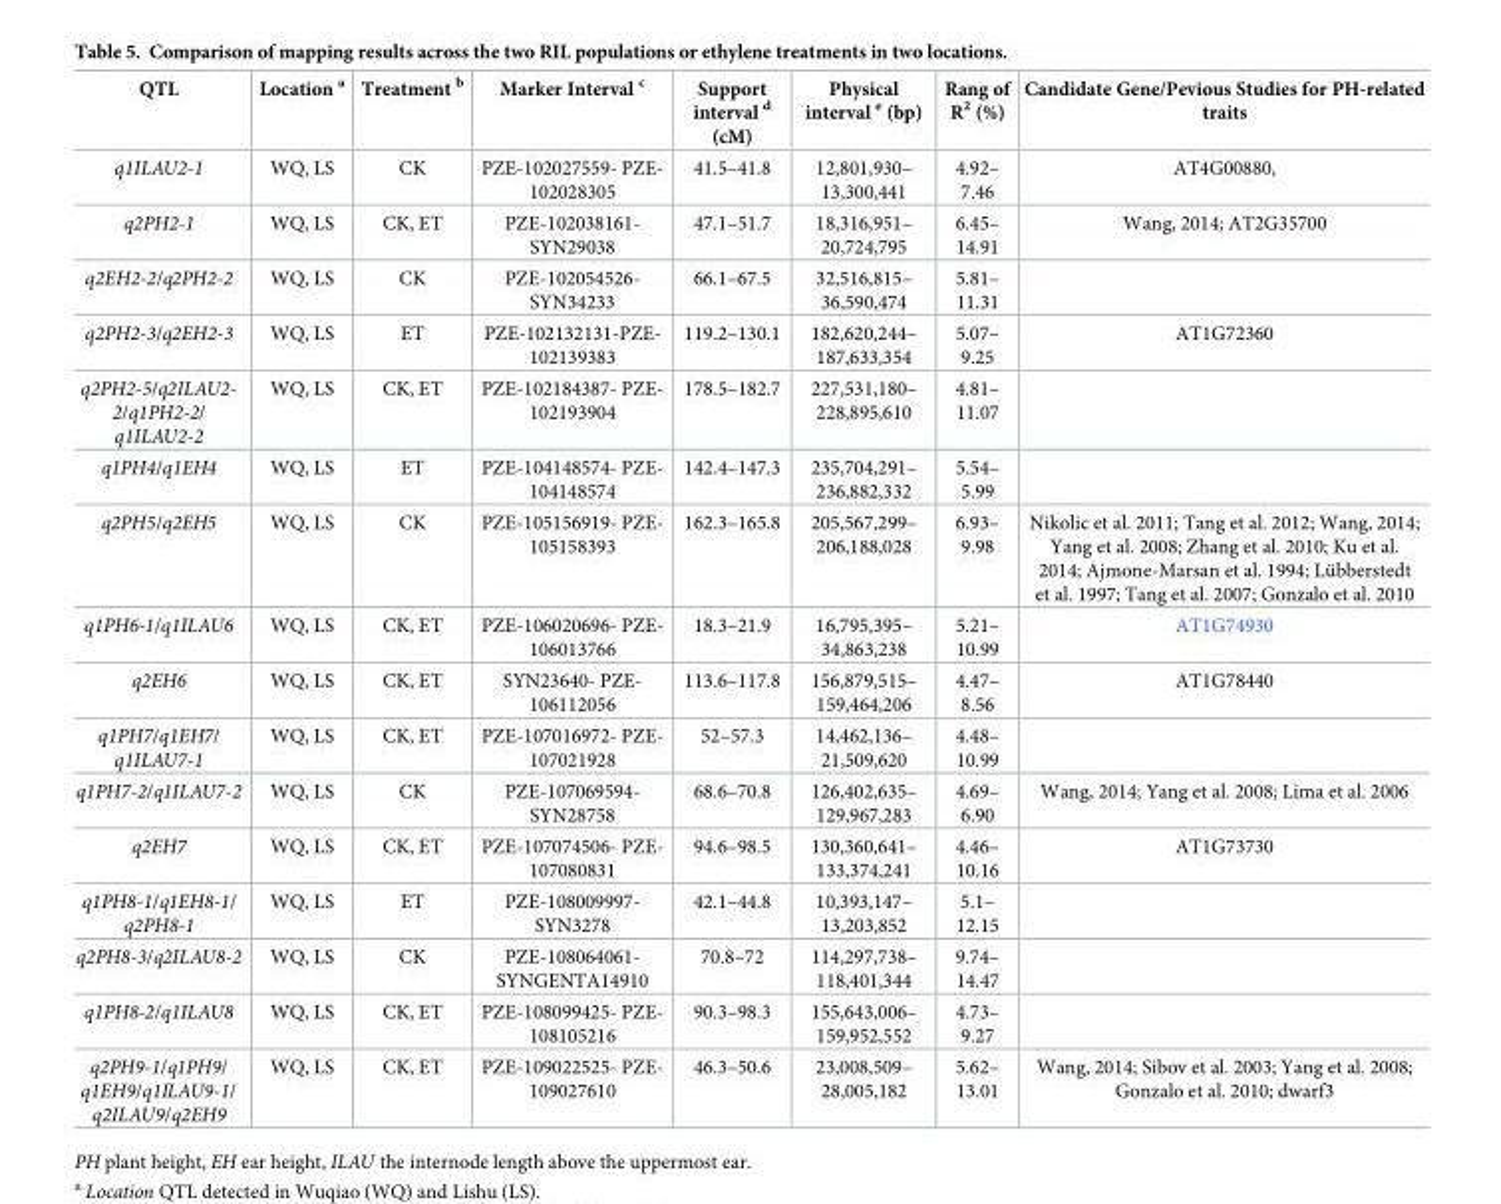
<table><thead><tr><td>QTL</td><td>Location <sup>a</sup></td><td>Treatment <sup>b</sup></td><td>Marker Interval <sup>c</sup></td><td>Support interval <sup>d</sup> (cM)</td><td>Physical interval <sup>e</sup> (bp)</td><td>Rang of R<sup>2</sup> (%)</td><td>Candidate Gene/Pevious Studies for PH-related traits</td></tr></thead><tbody><tr><td>q1ILAU2-1</td><td>WQ, LS</td><td>CK</td><td>PZE-102027559- PZE- 102028305</td><td>41.5–41.8</td><td>12,801,930– 13,300,441</td><td>4.92– 7.46</td><td>AT4G00880,</td></tr><tr><td>q2PH2-1</td><td>WQ, LS</td><td>CK, ET</td><td>PZE-102038161- SYN29038</td><td>47.1–51.7</td><td>18,316,951– 20,724,795</td><td>6.45– 14.91</td><td>Wang, 2014; AT2G35700</td></tr><tr><td>q2EH2-2/q2PH2-2</td><td>WQ, LS</td><td>CK</td><td>PZE-102054526- SYN34233</td><td>66.1–67.5</td><td>32,516,815– 36,590,474</td><td>5.81– 11.31</td><td></td></tr><tr><td>q2PH2-3/q2EH2-3</td><td>WQ, LS</td><td>ET</td><td>PZE-102132131-PZE- 102139383</td><td>119.2–130.1</td><td>182,620,244– 187,633,354</td><td>5.07– 9.25</td><td>AT1G72360</td></tr><tr><td>q2PH2-5/q2ILAU2- 2/q1PH2-2/ q1ILAU2-2</td><td>WQ, LS</td><td>CK, ET</td><td>PZE-102184387- PZE- 102193904</td><td>178.5–182.7</td><td>227,531,180– 228,895,610</td><td>4.81– 11.07</td><td></td></tr><tr><td>q1PH4/q1EH4</td><td>WQ, LS</td><td>ET</td><td>PZE-104148574- PZE- 104148574</td><td>142.4–147.3</td><td>235,704,291– 236,882,332</td><td>5.54– 5.99</td><td></td></tr><tr><td>q2PH5/q2EH5</td><td>WQ, LS</td><td>CK</td><td>PZE-105156919- PZE- 105158393</td><td>162.3–165.8</td><td>205,567,299– 206,188,028</td><td>6.93– 9.98</td><td>Nikolic et al. 2011; Tang et al. 2012; Wang, 2014; Yang et al. 2008; Zhang et al. 2010; Ku et al. 2014; Ajmone-Marsan et al. 1994; Lu¨bberstedt et al. 1997; Tang et al. 2007; Gonzalo et al. 2010</td></tr><tr><td>q1PH6-1/q1ILAU6</td><td>WQ, LS</td><td>CK, ET</td><td>PZE-106020696- PZE- 106013766</td><td>18.3–21.9</td><td>16,795,395– 34,863,238</td><td>5.21– 10.99</td><td>AT1G74930</td></tr><tr><td>q2EH6</td><td>WQ, LS</td><td>CK, ET</td><td>SYN23640- PZE- 106112056</td><td>113.6–117.8</td><td>156,879,515– 159,464,206</td><td>4.47– 8.56</td><td>AT1G78440</td></tr><tr><td>q1PH7/q1EH7/ q1ILAU7-1</td><td>WQ, LS</td><td>CK, ET</td><td>PZE-107016972- PZE- 107021928</td><td>52–57.3</td><td>14,462,136– 21,509,620</td><td>4.48– 10.99</td><td></td></tr><tr><td>q1PH7-2/q1ILAU7-2</td><td>WQ, LS</td><td>CK</td><td>PZE-107069594- SYN28758</td><td>68.6–70.8</td><td>126,402,635– 129,967,283</td><td>4.69– 6.90</td><td>Wang, 2014; Yang et al. 2008; Lima et al. 2006</td></tr><tr><td>q2EH7</td><td>WQ, LS</td><td>CK, ET</td><td>PZE-107074506- PZE- 107080831</td><td>94.6–98.5</td><td>130,360,641– 133,374,241</td><td>4.46– 10.16</td><td>AT1G73730</td></tr><tr><td>q1PH8-1/q1EH8-1/ q2PH8-1</td><td>WQ, LS</td><td>ET</td><td>PZE-108009997- SYN3278</td><td>42.1–44.8</td><td>10,393,147– 13,203,852</td><td>5.1– 12.15</td><td></td></tr><tr><td>q2PH8-3/q2ILAU8-2</td><td>WQ, LS</td><td>CK</td><td>PZE-108064061- SYNGENTA14910</td><td>70.8–72</td><td>114,297,738– 118,401,344</td><td>9.74– 14.47</td><td></td></tr><tr><td>q1PH8-2/q1ILAU8</td><td>WQ, LS</td><td>CK, ET</td><td>PZE-108099425- PZE- 108105216</td><td>90.3–98.3</td><td>155,643,006– 159,952,552</td><td>4.73– 9.27</td><td></td></tr><tr><td>q2PH9-1/q1PH9/ q1EH9/q1ILAU9-1/ q2ILAU9/q2EH9</td><td>WQ, LS</td><td>CK, ET</td><td>PZE-109022525- PZE- 109027610</td><td>46.3–50.6</td><td>23,008,509– 28,005,182</td><td>5.62– 13.01</td><td>Wang, 2014; Sibov et al. 2003; Yang et al. 2008; Gonzalo et al. 2010; dwarf3</td></tr></tbody></table>